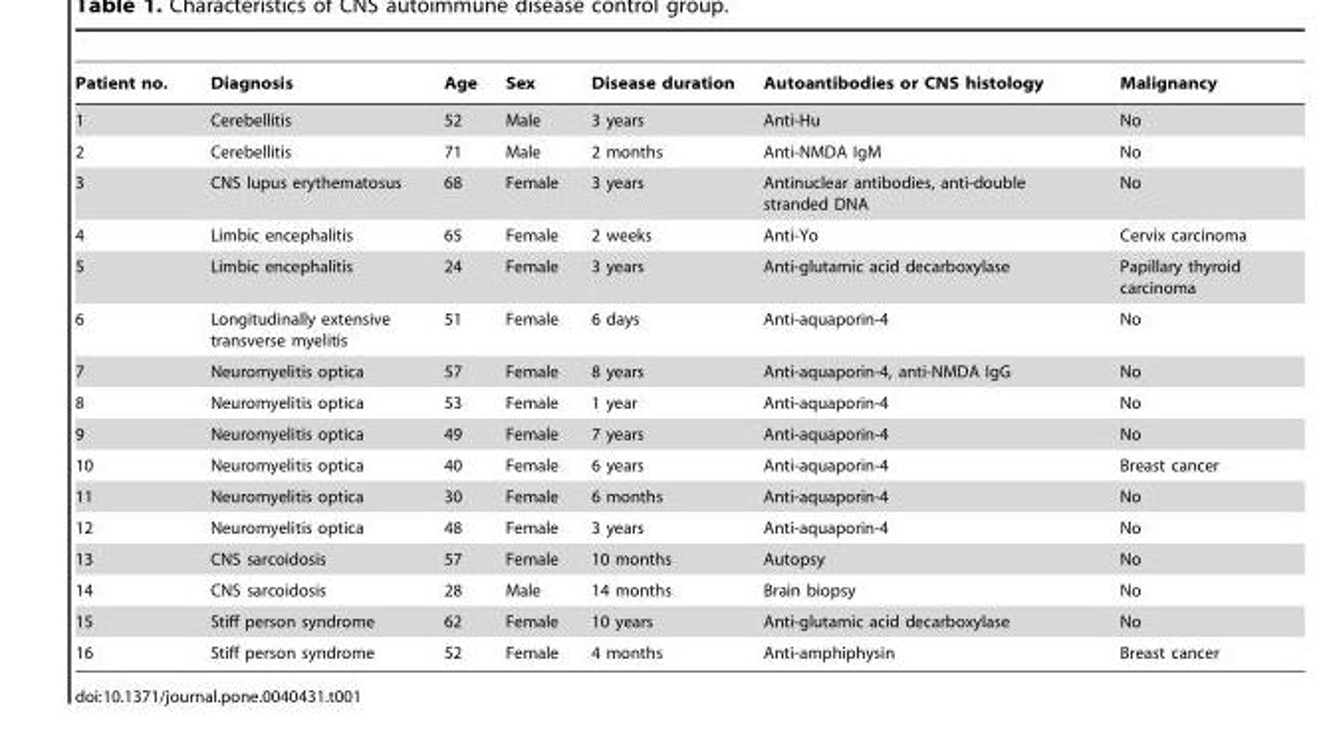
<table><thead><tr><td>Patient no.</td><td>Diagnosis</td><td>Age</td><td>Sex</td><td>Disease duration</td><td>Autoantibodies or CNS histology</td><td>Malignancy</td></tr></thead><tbody><tr><td>1</td><td>Cerebellitis</td><td>52</td><td>Male</td><td>3 years</td><td>Anti-Hu</td><td>No</td></tr><tr><td>2</td><td>Cerebellitis</td><td>71</td><td>Male</td><td>2 months</td><td>Anti-NMDA IgM</td><td>No</td></tr><tr><td>3</td><td>CNS lupus erythematosus</td><td>68</td><td>Female</td><td>3 years</td><td>Antinuclear antibodies, anti-double stranded DNA</td><td>No</td></tr><tr><td>4</td><td>Limbic encephalitis</td><td>65</td><td>Female</td><td>2 weeks</td><td>Anti-Yo</td><td>Cervix carcinoma</td></tr><tr><td>5</td><td>Limbic encephalitis</td><td>24</td><td>Female</td><td>3 years</td><td>Anti-glutamic acid decarboxylase</td><td>Papillary thyroid carcinoma</td></tr><tr><td>6</td><td>Longitudinally extensive transverse myelitis</td><td>51</td><td>Female</td><td>6 days</td><td>Anti-aquaporin-4</td><td>No</td></tr><tr><td>7</td><td>Neuromyelitis optica</td><td>57</td><td>Female</td><td>8 years</td><td>Anti-aquaporin-4, anti-NMDA IgG</td><td>No</td></tr><tr><td>8</td><td>Neuromyelitis optica</td><td>53</td><td>Female</td><td>1 year</td><td>Anti-aquaporin-4</td><td>No</td></tr><tr><td>9</td><td>Neuromyelitis optica</td><td>49</td><td>Female</td><td>7 years</td><td>Anti-aquaporin-4</td><td>No</td></tr><tr><td>10</td><td>Neuromyelitis optica</td><td>40</td><td>Female</td><td>6 years</td><td>Anti-aquaporin-4</td><td>Breast cancer</td></tr><tr><td>11</td><td>Neuromyelitis optica</td><td>30</td><td>Female</td><td>6 months</td><td>Anti-aquaporin-4</td><td>No</td></tr><tr><td>12</td><td>Neuromyelitis optica</td><td>48</td><td>Female</td><td>3 years</td><td>Anti-aquaporin-4</td><td>No</td></tr><tr><td>13</td><td>CNS sarcoidosis</td><td>57</td><td>Female</td><td>10 months</td><td>Autopsy</td><td>No</td></tr><tr><td>14</td><td>CNS sarcoidosis</td><td>28</td><td>Male</td><td>14 months</td><td>Brain biopsy</td><td>No</td></tr><tr><td>15</td><td>Stiff person syndrome</td><td>62</td><td>Female</td><td>10 years</td><td>Anti-glutamic acid decarboxylase</td><td>No</td></tr><tr><td>16</td><td>Stiff person syndrome</td><td>52</td><td>Female</td><td>4 months</td><td>Anti-amphiphysin</td><td>Breast cancer</td></tr></tbody></table>